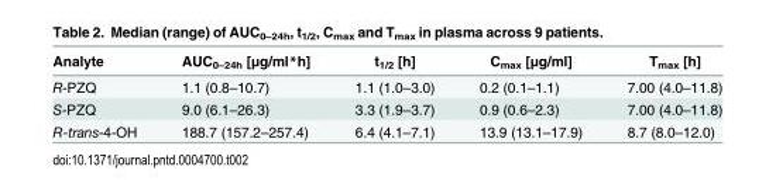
<table><thead><tr><td>Analyte</td><td>AUC<sub>0–24h</sub> [μg/ml*h]</td><td>t<sub>1/2</sub> [h]</td><td>C<sub>max</sub> [μg/ml]</td><td>T<sub>max</sub> [h]</td></tr></thead><tbody><tr><td>R-PZQ</td><td>1.1 (0.8–10.7)</td><td>1.1 (1.0–3.0)</td><td>0.2 (0.1–1.1)</td><td>7.00 (4.0–11.8)</td></tr><tr><td>S-PZQ</td><td>9.0 (6.1–26.3)</td><td>3.3 (1.9–3.7)</td><td>0.9 (0.6–2.3)</td><td>7.00 (4.0–11.8)</td></tr><tr><td>R-trans-4-OH</td><td>188.7 (157.2–257.4)</td><td>6.4 (4.1–7.1)</td><td>13.9 (13.1–17.9)</td><td>8.7 (8.0–12.0)</td></tr></tbody></table>